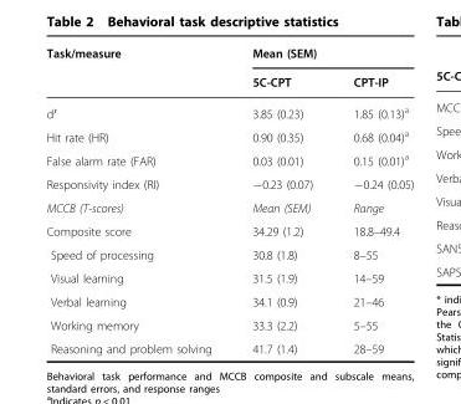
<table><thead><tr><td rowspan="2">Task/measure</td><td colspan="2">Mean (SEM)</td></tr><tr><td>5C-CPT</td><td>CPT-IP</td></tr></thead><tbody><tr><td>d′</td><td>3.85 (0.23)</td><td>1.85 (0.13)<sup>a</sup></td></tr><tr><td>Hit rate (HR)</td><td>0.90 (0.35)</td><td>0.68 (0.04)<sup>a</sup></td></tr><tr><td>False alarm rate (FAR)</td><td>0.03 (0.01)</td><td>0.15 (0.01)<sup>a</sup></td></tr><tr><td>Responsivity index (RI)</td><td>−0.23 (0.07)</td><td>−0.24 (0.05)</td></tr><tr><td>MCCB (T-scores)</td><td>Mean (SEM)</td><td>Range</td></tr><tr><td>Composite score</td><td>34.29 (1.2)</td><td>18.8–49.4</td></tr><tr><td>Speed of processing</td><td>30.8 (1.8)</td><td>8–55</td></tr><tr><td>Visual learning</td><td>31.5 (1.9)</td><td>14–59</td></tr><tr><td>Verbal learning</td><td>34.1 (0.9)</td><td>21–46</td></tr><tr><td>Working memory</td><td>33.3 (2.2)</td><td>5–55</td></tr><tr><td>Reasoning and problem solving</td><td>41.7 (1.4)</td><td>28–59</td></tr></tbody></table>